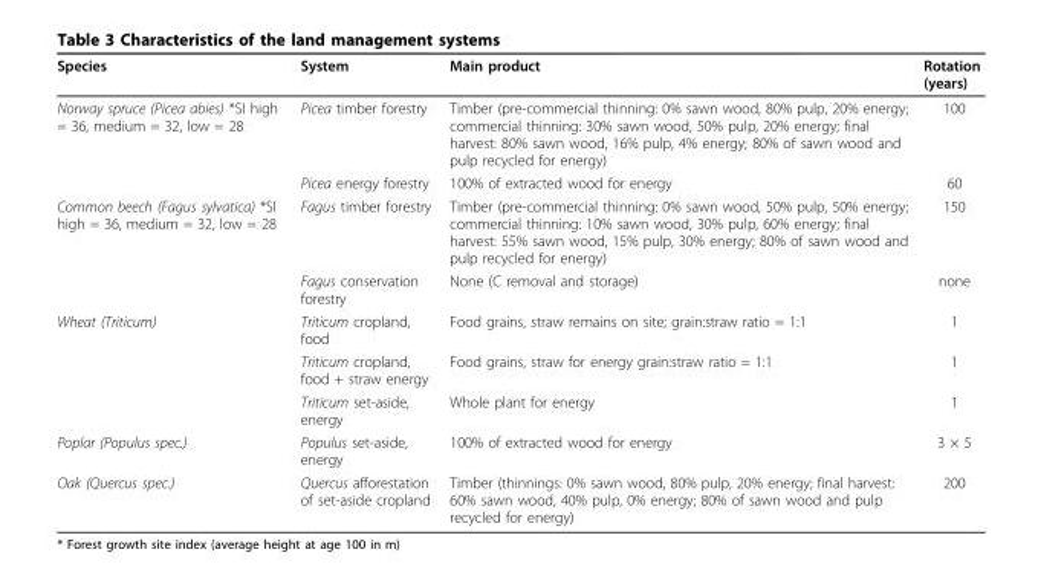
<table><thead><tr><td>Species</td><td>System</td><td>Main product</td><td>Rotation (years)</td></tr></thead><tbody><tr><td rowspan="2">Norway spruce (Picea abies) *SI high = 36, medium = 32, low = 28</td><td>Picea timber forestry</td><td>Timber (pre-commercial thinning: 0% sawn wood, 80% pulp, 20% energy; commercial thinning: 30% sawn wood, 50% pulp, 20% energy; final harvest: 80% sawn wood, 16% pulp, 4% energy; 80% of sawn wood and pulp recycled for energy)</td><td>100</td></tr><tr><td>Picea energy forestry</td><td>100% of extracted wood for energy</td><td>60</td></tr><tr><td rowspan="2">Common beech (Fagus sylvatica) *SI high = 36, medium = 32, low = 28</td><td>Fagus timber forestry</td><td>Timber (pre-commercial thinning: 0% sawn wood, 50% pulp, 50% energy; commercial thinning: 10% sawn wood, 30% pulp, 60% energy; final harvest: 55% sawn wood, 15% pulp, 30% energy; 80% of sawn wood and pulp recycled for energy)</td><td>150</td></tr><tr><td>Fagus conservation forestry</td><td>None (C removal and storage)</td><td>none</td></tr><tr><td rowspan="3">Wheat (Triticum)</td><td>Triticum cropland, food</td><td>Food grains, straw remains on site; grain:straw ratio = 1:1</td><td>1</td></tr><tr><td>Triticum cropland, food + straw energy</td><td>Food grains, straw for energy grain:straw ratio = 1:1</td><td>1</td></tr><tr><td>Triticum set-aside, energy</td><td>Whole plant for energy</td><td>1</td></tr><tr><td>Poplar (Populus spec.)</td><td>Populus set-aside, energy</td><td>100% of extracted wood for energy</td><td>3 × 5</td></tr><tr><td>Oak (Quercus spec.)</td><td>Quercus afforestation of set-aside cropland</td><td>Timber (thinnings: 0% sawn wood, 80% pulp, 20% energy; final harvest: 60% sawn wood, 40% pulp, 0% energy; 80% of sawn wood and pulp recycled for energy)</td><td>200</td></tr></tbody></table>